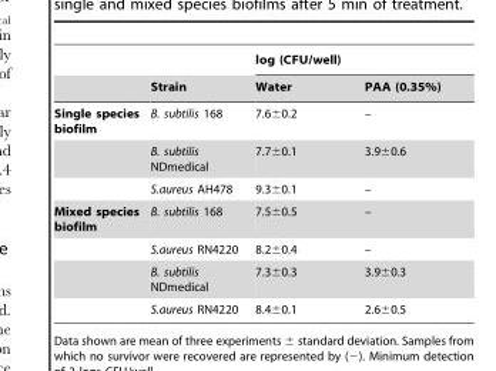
<table><thead><tr><td rowspan="2"></td><td rowspan="2">Strain</td><td colspan="2">log (CFU/well)</td></tr><tr><td>Water</td><td>PAA (0.35%)</td></tr></thead><tbody><tr><td rowspan="3">Single species biofilm</td><td>B. subtilis 168</td><td>7.6±0.2</td><td>–</td></tr><tr><td>B. subtilis NDmedical</td><td>7.7±0.1</td><td>3.9±0.6</td></tr><tr><td>S.aureus AH478</td><td>9.3±0.1</td><td>–</td></tr><tr><td rowspan="4">Mixed species biofilm</td><td>B. subtilis 168</td><td>7.5±0.5</td><td>–</td></tr><tr><td>S.aureus RN4220</td><td>8.2±0.4</td><td>–</td></tr><tr><td>B. subtilis NDmedical</td><td>7.3±0.3</td><td>3.9±0.3</td></tr><tr><td>S.aureus RN4220</td><td>8.4±0.1</td><td>2.6±0.5</td></tr></tbody></table>